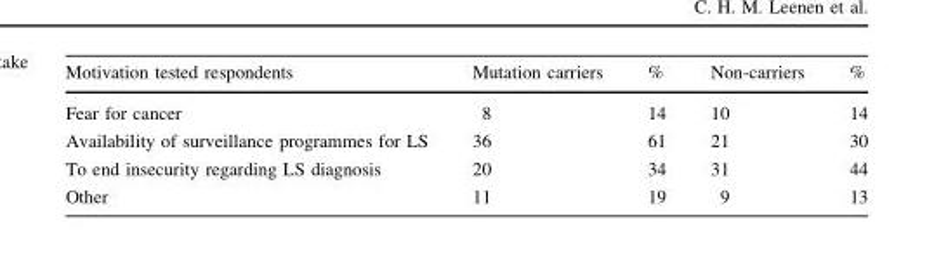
<table><thead><tr><td>Motivation tested respondents</td><td>Mutation carriers</td><td>%</td><td>Non-carriers</td><td>%</td></tr></thead><tbody><tr><td>Fear for cancer</td><td>8</td><td>14</td><td>10</td><td>14</td></tr><tr><td>Availability of surveillance programmes for LS</td><td>36</td><td>61</td><td>21</td><td>30</td></tr><tr><td>To end insecurity regarding LS diagnosis</td><td>20</td><td>34</td><td>31</td><td>44</td></tr><tr><td>Other</td><td>11</td><td>19</td><td>9</td><td>13</td></tr></tbody></table>